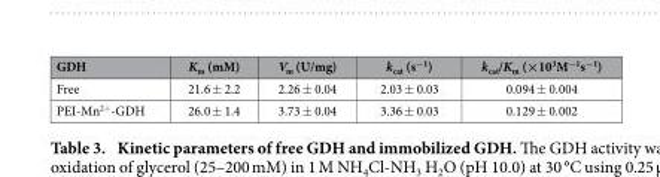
<table><thead><tr><td>GDH</td><td>K<sub>m</sub> (mM)</td><td>V<sub>m</sub> (U/mg)</td><td>k<sub>cat</sub> (s<sup>−1</sup>)</td><td>k<sub>cat</sub>/K<sub>m</sub> (×10<sup>3</sup>M<sup>−1</sup>s<sup>−1</sup>)</td></tr></thead><tbody><tr><td>Free</td><td>21.6 ± 2.2</td><td>2.26 ± 0.04</td><td>2.03 ± 0.03</td><td>0.094 ± 0.004</td></tr><tr><td>PEI-Mn<sup>2+</sup>-GDH</td><td>26.0 ± 1.4</td><td>3.73 ± 0.04</td><td>3.36 ± 0.03</td><td>0.129 ± 0.002</td></tr></tbody></table>